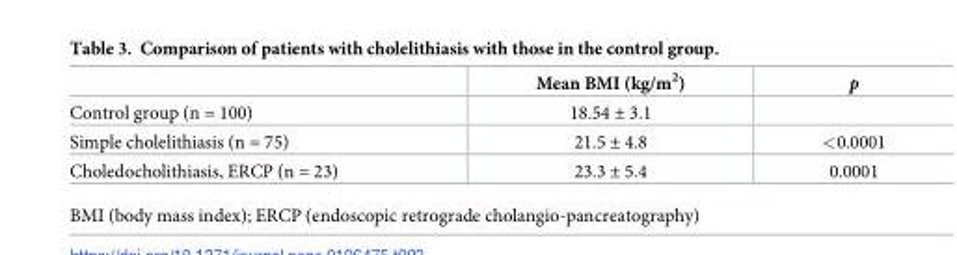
<table><thead><tr><td></td><td>Mean BMI (kg/m<sup>2</sup>)</td><td>p</td></tr></thead><tbody><tr><td>Control group (n = 100)</td><td>18.54 ± 3.1</td><td></td></tr><tr><td>Simple cholelithiasis (n = 75)</td><td>21.5 ± 4.8</td><td>&lt;0.0001</td></tr><tr><td>Choledocholithiasis, ERCP (n = 23)</td><td>23.3 ± 5.4</td><td>0.0001</td></tr></tbody></table>